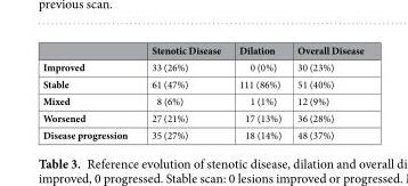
<table><thead><tr><td></td><td>Stenotic Disease</td><td>Dilation</td><td>Overall Disease</td></tr></thead><tbody><tr><td>Improved</td><td>33 (26%)</td><td>0 (0%)</td><td>30 (23%)</td></tr><tr><td>Stable</td><td>61 (47%)</td><td>111 (86%)</td><td>51 (40%)</td></tr><tr><td>Mixed</td><td>8 (6%)</td><td>1 (1%)</td><td>12 (9%)</td></tr><tr><td>Worsened</td><td>27 (21%)</td><td>17 (13%)</td><td>36 (28%)</td></tr><tr><td>Disease progression</td><td>35 (27%)</td><td>18 (14%)</td><td>48 (37%)</td></tr></tbody></table>